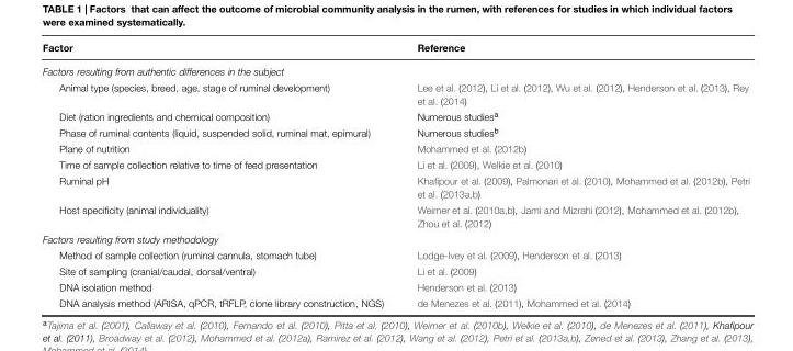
<table><thead><tr><td>Factor</td><td>Reference</td></tr></thead><tbody><tr><td colspan="2">Factors resulting from authentic differences in the subject</td></tr><tr><td>Animal type (species, breed, age, stage of ruminal development)</td><td>Lee et al. (2012), Li et al. (2012), Wu et al. (2012), Henderson et al. (2013), Rey et al. (2014)</td></tr><tr><td>Diet (ration ingredients and chemical composition)</td><td>Numerous studies<sup>a</sup></td></tr><tr><td>Phase of ruminal contents (liquid, suspended solid, ruminal mat, epimural)</td><td>Numerous studies<sup>b</sup></td></tr><tr><td>Plane of nutrition</td><td>Mohammed et al. (2012b)</td></tr><tr><td>Time of sample collection relative to time of feed presentation</td><td>Li et al. (2009), Welkie et al. (2010)</td></tr><tr><td>Ruminal pH</td><td>Khafipour et al. (2009), Palmonari et al. (2010), Mohammed et al. (2012b), Petri et al. (2013a,b)</td></tr><tr><td>Host specificity (animal individuality)</td><td>Weimer et al. (2010a,b), Jami and Mizrahi (2012), Mohammed et al. (2012b), Zhou et al. (2012)</td></tr><tr><td colspan="2">Factors resulting from study methodology</td></tr><tr><td>Method of sample collection (ruminal cannula, stomach tube)</td><td>Lodge-Ivey et al. (2009), Henderson et al. (2013)</td></tr><tr><td>Site of sampling (cranial/caudal, dorsal/ventral)</td><td>Li et al. (2009)</td></tr><tr><td>DNA isolation method</td><td>Henderson et al. (2013)</td></tr><tr><td>DNA analysis method (ARISA, qPCR, tRFLP, clone library construction, NGS)</td><td>de Menezes et al. (2011), Mohammed et al. (2014)</td></tr></tbody></table>